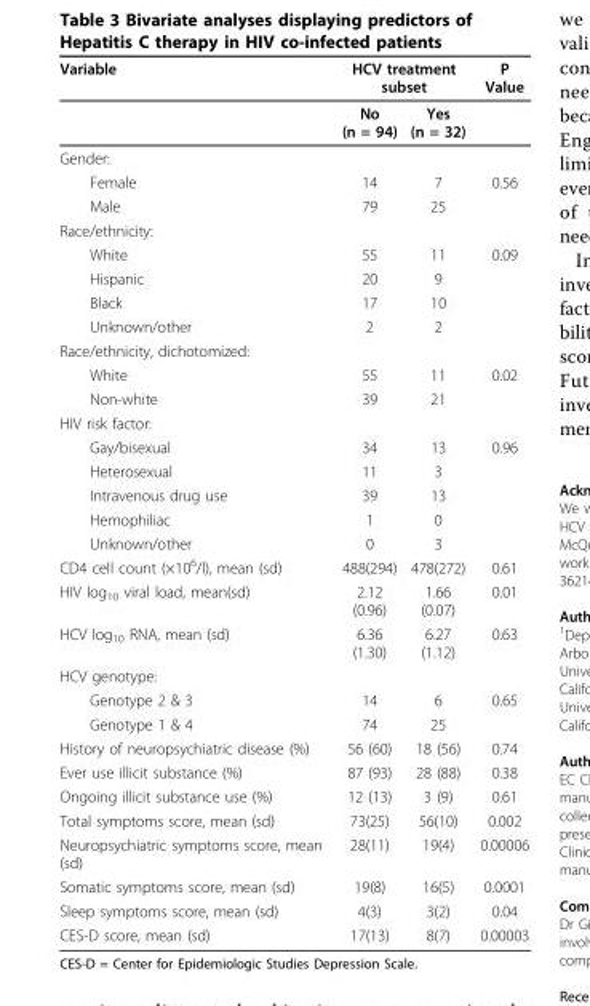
<table><thead><tr><td rowspan="2">Variable</td><td colspan="2">HCV treatment subset</td><td rowspan="2">P Value</td></tr><tr><td>No (n = 94)</td><td>Yes (n = 32)</td></tr></thead><tbody><tr><td colspan="4">Gender:</td></tr><tr><td>Female</td><td>14</td><td>7</td><td>0.56</td></tr><tr><td>Male</td><td>79</td><td>25</td><td></td></tr><tr><td colspan="4">Race/ethnicity:</td></tr><tr><td>White</td><td>55</td><td>11</td><td>0.09</td></tr><tr><td>Hispanic</td><td>20</td><td>9</td><td></td></tr><tr><td>Black</td><td>17</td><td>10</td><td></td></tr><tr><td>Unknown/other</td><td>2</td><td>2</td><td></td></tr><tr><td colspan="4">Race/ethnicity, dichotomized:</td></tr><tr><td>White</td><td>55</td><td>11</td><td>0.02</td></tr><tr><td>Non-white</td><td>39</td><td>21</td><td></td></tr><tr><td colspan="4">HIV risk factor:</td></tr><tr><td>Gay/bisexual</td><td>34</td><td>13</td><td>0.96</td></tr><tr><td>Heterosexual</td><td>11</td><td>3</td><td></td></tr><tr><td>Intravenous drug use</td><td>39</td><td>13</td><td></td></tr><tr><td>Hemophiliac</td><td>1</td><td>0</td><td></td></tr><tr><td>Unknown/other</td><td>0</td><td>3</td><td></td></tr><tr><td>CD4 cell count (×10<sup>6</sup>/l), mean (sd)</td><td>488(294)</td><td>478(272)</td><td>0.61</td></tr><tr><td>HIV log<sub>10</sub> viral load, mean(sd)</td><td>2.12 (0.96)</td><td>1.66 (0.07)</td><td>0.01</td></tr><tr><td>HCV log<sub>10</sub> RNA, mean (sd)</td><td>6.36 (1.30)</td><td>6.27 (1.12)</td><td>0.63</td></tr><tr><td colspan="4">HCV genotype:</td></tr><tr><td>Genotype 2 &amp; 3</td><td>14</td><td>6</td><td>0.65</td></tr><tr><td>Genotype 1 &amp; 4</td><td>74</td><td>25</td><td></td></tr><tr><td>History of neuropsychiatric disease (%)</td><td>56 (60)</td><td>18 (56)</td><td>0.74</td></tr><tr><td>Ever use illicit substance (%)</td><td>87 (93)</td><td>28 (88)</td><td>0.38</td></tr><tr><td>Ongoing illicit substance use (%)</td><td>12 (13)</td><td>3 (9)</td><td>0.61</td></tr><tr><td>Total symptoms score, mean (sd)</td><td>73(25)</td><td>56(10)</td><td>0.002</td></tr><tr><td>Neuropsychiatric symptoms score, mean (sd)</td><td>28(11)</td><td>19(4)</td><td>0.00006</td></tr><tr><td>Somatic symptoms score, mean (sd)</td><td>19(8)</td><td>16(5)</td><td>0.0001</td></tr><tr><td>Sleep symptoms score, mean (sd)</td><td>4(3)</td><td>3(2)</td><td>0.04</td></tr><tr><td>CES-D score, mean (sd)</td><td>17(13)</td><td>8(7)</td><td>0.00003</td></tr></tbody></table>